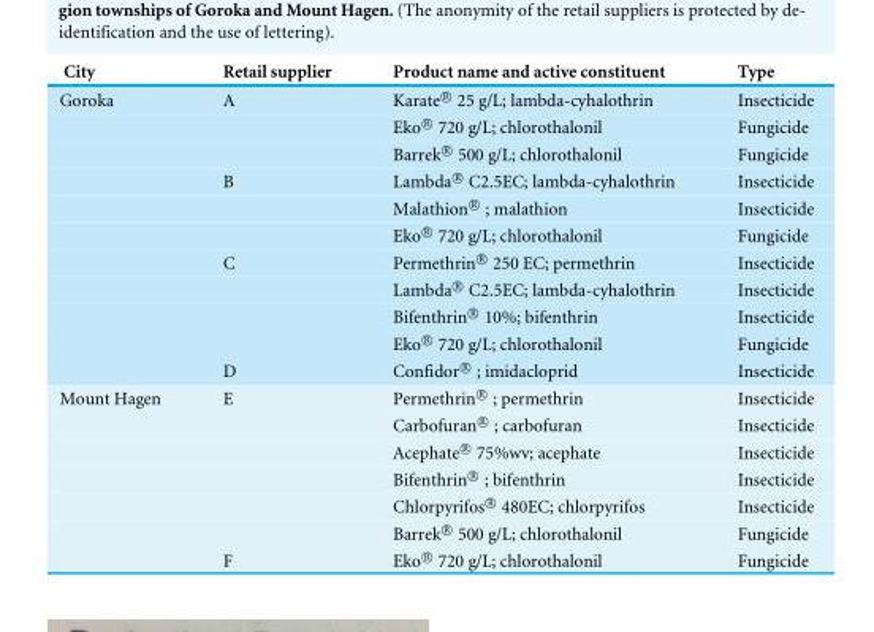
<table><thead><tr><td>City</td><td>Retail supplier</td><td>Product name and active constituent</td><td>Type</td></tr></thead><tbody><tr><td rowspan="11">Goroka</td><td>A</td><td>Karate R⃝ 25 g/L; lambda-cyhalothrin</td><td>Insecticide</td></tr><tr><td></td><td>Eko R⃝ 720 g/L; chlorothalonil</td><td>Fungicide</td></tr><tr><td></td><td>Barrek R⃝ 500 g/L; chlorothalonil</td><td>Fungicide</td></tr><tr><td>B</td><td>Lambda R⃝ C2.5EC; lambda-cyhalothrin</td><td>Insecticide</td></tr><tr><td></td><td>Malathion R⃝ ; malathion</td><td>Insecticide</td></tr><tr><td></td><td>Eko R⃝ 720 g/L; chlorothalonil</td><td>Fungicide</td></tr><tr><td>C</td><td>Permethrin R⃝ 250 EC; permethrin</td><td>Insecticide</td></tr><tr><td></td><td>Lambda R⃝ C2.5EC; lambda-cyhalothrin</td><td>Insecticide</td></tr><tr><td></td><td>Bifenthrin R⃝ 10%; bifenthrin</td><td>Insecticide</td></tr><tr><td></td><td>Eko R⃝ 720 g/L; chlorothalonil</td><td>Fungicide</td></tr><tr><td>D</td><td>Confidor R⃝ ; imidacloprid</td><td>Insecticide</td></tr><tr><td rowspan="7">Mount Hagen</td><td>E</td><td>Permethrin R⃝ ; permethrin</td><td>Insecticide</td></tr><tr><td></td><td>Carbofuran R⃝ ; carbofuran</td><td>Insecticide</td></tr><tr><td></td><td>Acephate R⃝ 75%wv; acephate</td><td>Insecticide</td></tr><tr><td></td><td>Bifenthrin R⃝ ; bifenthrin</td><td>Insecticide</td></tr><tr><td></td><td>Chlorpyrifos R⃝ 480EC; chlorpyrifos</td><td>Insecticide</td></tr><tr><td></td><td>Barrek R⃝ 500 g/L; chlorothalonil</td><td>Fungicide</td></tr><tr><td>F</td><td>Eko R⃝ 720 g/L; chlorothalonil</td><td>Fungicide</td></tr></tbody></table>